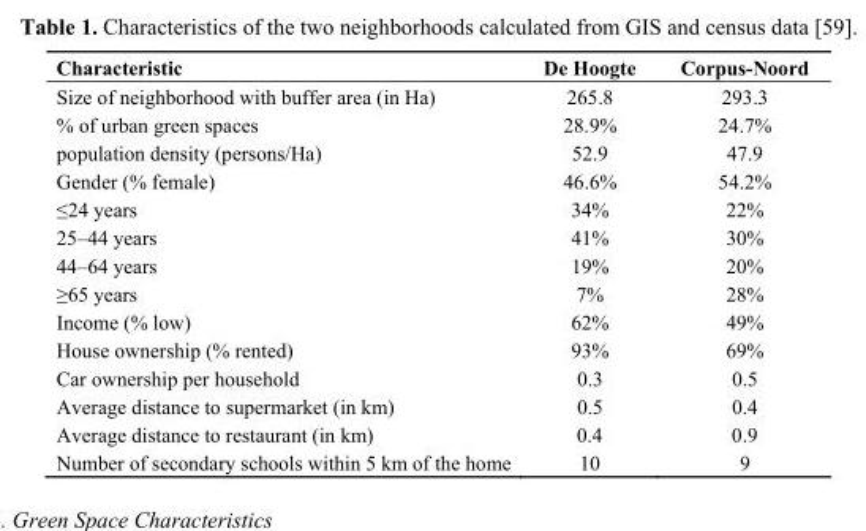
<table><thead><tr><td>Characteristic</td><td>De Hoogte</td><td>Corpus-Noord</td></tr></thead><tbody><tr><td>Size of neighborhood with buffer area (in Ha)</td><td>265.8</td><td>293.3</td></tr><tr><td>% of urban green spaces</td><td>28.9%</td><td>24.7%</td></tr><tr><td>population density (persons/Ha)</td><td>52.9</td><td>47.9</td></tr><tr><td>Gender (% female)</td><td>46.6%</td><td>54.2%</td></tr><tr><td>≤24 years</td><td>34%</td><td>22%</td></tr><tr><td>25–44 years</td><td>41%</td><td>30%</td></tr><tr><td>44–64 years</td><td>19%</td><td>20%</td></tr><tr><td>≥65 years</td><td>7%</td><td>28%</td></tr><tr><td>Income (% low)</td><td>62%</td><td>49%</td></tr><tr><td>House ownership (% rented)</td><td>93%</td><td>69%</td></tr><tr><td>Car ownership per household</td><td>0.3</td><td>0.5</td></tr><tr><td>Average distance to supermarket (in km)</td><td>0.5</td><td>0.4</td></tr><tr><td>Average distance to restaurant (in km)</td><td>0.4</td><td>0.9</td></tr><tr><td>Number of secondary schools within 5 km of the home</td><td>10</td><td>9</td></tr></tbody></table>